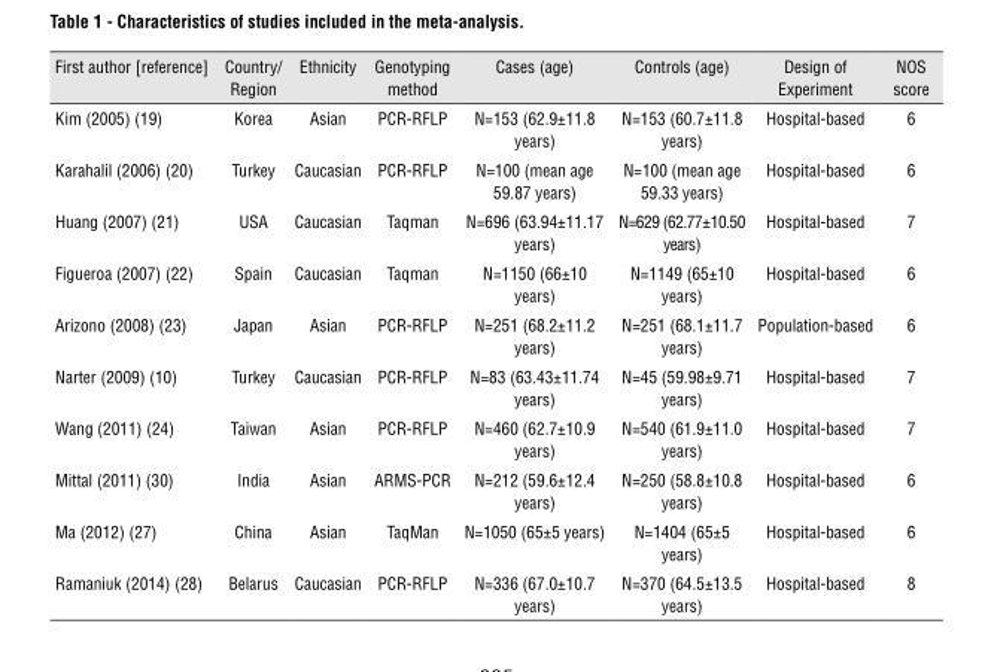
<table><thead><tr><td>First author [reference]</td><td>Country/ Region</td><td>Ethnicity</td><td>Genotyping method</td><td>Cases (age)</td><td>Controls (age)</td><td>Design of Experiment</td><td>NOS score</td></tr></thead><tbody><tr><td>Kim (2005) (19)</td><td>Korea</td><td>Asian</td><td>PCR-RFLP</td><td>N=153 (62.9±11.8 years)</td><td>N=153 (60.7±11.8 years)</td><td>Hospital-based</td><td>6</td></tr><tr><td>Karahalil (2006) (20)</td><td>Turkey</td><td>Caucasian</td><td>PCR-RFLP</td><td>N=100 (mean age 59.87 years)</td><td>N=100 (mean age 59.33 years)</td><td>Hospital-based</td><td>6</td></tr><tr><td>Huang (2007) (21)</td><td>USA</td><td>Caucasian</td><td>Taqman</td><td>N=696 (63.94±11.17 years)</td><td>N=629 (62.77±10.50 years)</td><td>Hospital-based</td><td>7</td></tr><tr><td>Figueroa (2007) (22)</td><td>Spain</td><td>Caucasian</td><td>Taqman</td><td>N=1150 (66±10 years)</td><td>N=1149 (65±10 years)</td><td>Hospital-based</td><td>6</td></tr><tr><td>Arizono (2008) (23)</td><td>Japan</td><td>Asian</td><td>PCR-RFLP</td><td>N=251 (68.2±11.2 years)</td><td>N=251 (68.1±11.7 years)</td><td>Population-based</td><td>6</td></tr><tr><td>Narter (2009) (10)</td><td>Turkey</td><td>Caucasian</td><td>PCR-RFLP</td><td>N=83 (63.43±11.74 years)</td><td>N=45 (59.98±9.71 years)</td><td>Hospital-based</td><td>7</td></tr><tr><td>Wang (2011) (24)</td><td>Taiwan</td><td>Asian</td><td>PCR-RFLP</td><td>N=460 (62.7±10.9 years)</td><td>N=540 (61.9±11.0 years)</td><td>Hospital-based</td><td>7</td></tr><tr><td>Mittal (2011) (30)</td><td>India</td><td>Asian</td><td>ARMS-PCR</td><td>N=212 (59.6±12.4 years)</td><td>N=250 (58.8±10.8 years)</td><td>Hospital-based</td><td>6</td></tr><tr><td>Ma (2012) (27)</td><td>China</td><td>Asian</td><td>TaqMan</td><td>N=1050 (65±5 years)</td><td>N=1404 (65±5 years)</td><td>Hospital-based</td><td>6</td></tr><tr><td>Ramaniuk (2014) (28)</td><td>Belarus</td><td>Caucasian</td><td>PCR-RFLP</td><td>N=336 (67.0±10.7 years)</td><td>N=370 (64.5±13.5 years)</td><td>Hospital-based</td><td>8</td></tr></tbody></table>